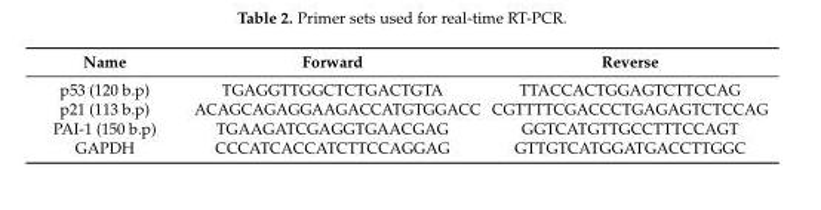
<table><thead><tr><td>Name</td><td>Forward</td><td>Reverse</td></tr></thead><tbody><tr><td>p53 (120 b.p)</td><td>TGAGGTTGGCTCTGACTGTA</td><td>TTACCACTGGAGTCTTCCAG</td></tr><tr><td>p21 (113 b.p)</td><td>ACAGCAGAGGAAGACCATGTGGACC</td><td>CGTTTTCGACCCTGAGAGTCTCCAG</td></tr><tr><td>PAI-1 (150 b.p)</td><td>TGAAGATCGAGGTGAACGAG</td><td>GGTCATGTTGCCTTTCCAGT</td></tr><tr><td>GAPDH</td><td>CCCATCACCATCTTCCAGGAG</td><td>GTTGTCATGGATGACCTTGGC</td></tr></tbody></table>